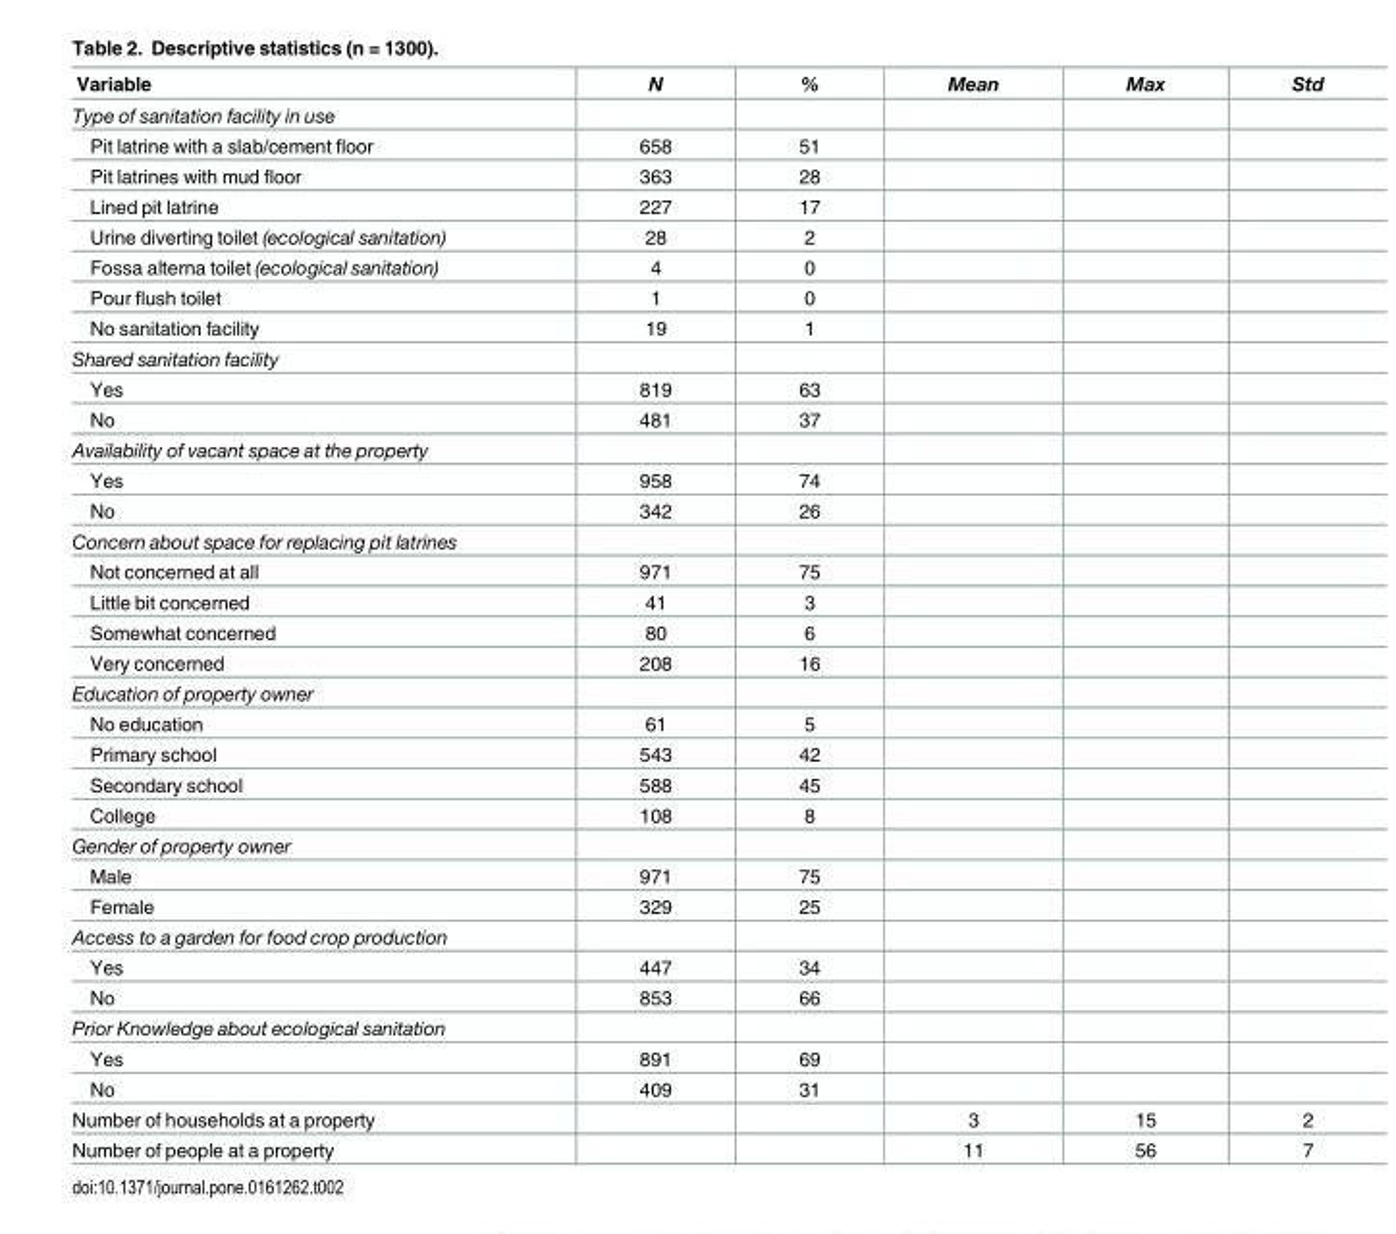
<table><thead><tr><td>Variable</td><td>N</td><td>%</td><td>Mean</td><td>Max</td><td>Std</td></tr></thead><tbody><tr><td colspan="6">Type of sanitation facility in use</td></tr><tr><td>Pit latrine with a slab/cement floor</td><td>658</td><td>51</td><td></td><td></td><td></td></tr><tr><td>Pit latrines with mud floor</td><td>363</td><td>28</td><td></td><td></td><td></td></tr><tr><td>Lined pit latrine</td><td>227</td><td>17</td><td></td><td></td><td></td></tr><tr><td>Urine diverting toilet (ecological sanitation)</td><td>28</td><td>2</td><td></td><td></td><td></td></tr><tr><td>Fossa alterna toilet (ecological sanitation)</td><td>4</td><td>0</td><td></td><td></td><td></td></tr><tr><td>Pour flush toilet</td><td>1</td><td>0</td><td></td><td></td><td></td></tr><tr><td>No sanitation facility</td><td>19</td><td>1</td><td></td><td></td><td></td></tr><tr><td colspan="6">Shared sanitation facility</td></tr><tr><td>Yes</td><td>819</td><td>63</td><td></td><td></td><td></td></tr><tr><td>No</td><td>481</td><td>37</td><td></td><td></td><td></td></tr><tr><td colspan="6">Availability of vacant space at the property</td></tr><tr><td>Yes</td><td>958</td><td>74</td><td></td><td></td><td></td></tr><tr><td>No</td><td>342</td><td>26</td><td></td><td></td><td></td></tr><tr><td colspan="6">Concern about space for replacing pit latrines</td></tr><tr><td>Not concerned at all</td><td>971</td><td>75</td><td></td><td></td><td></td></tr><tr><td>Little bit concerned</td><td>41</td><td>3</td><td></td><td></td><td></td></tr><tr><td>Somewhat concerned</td><td>80</td><td>6</td><td></td><td></td><td></td></tr><tr><td>Very concerned</td><td>208</td><td>16</td><td></td><td></td><td></td></tr><tr><td colspan="6">Education of property owner</td></tr><tr><td>No education</td><td>61</td><td>5</td><td></td><td></td><td></td></tr><tr><td>Primary school</td><td>543</td><td>42</td><td></td><td></td><td></td></tr><tr><td>Secondary school</td><td>588</td><td>45</td><td></td><td></td><td></td></tr><tr><td>College</td><td>108</td><td>8</td><td></td><td></td><td></td></tr><tr><td colspan="6">Gender of property owner</td></tr><tr><td>Male</td><td>971</td><td>75</td><td></td><td></td><td></td></tr><tr><td>Female</td><td>329</td><td>25</td><td></td><td></td><td></td></tr><tr><td colspan="6">Access to a garden for food crop production</td></tr><tr><td>Yes</td><td>447</td><td>34</td><td></td><td></td><td></td></tr><tr><td>No</td><td>853</td><td>66</td><td></td><td></td><td></td></tr><tr><td colspan="6">Prior Knowledge about ecological sanitation</td></tr><tr><td>Yes</td><td>891</td><td>69</td><td></td><td></td><td></td></tr><tr><td>No</td><td>409</td><td>31</td><td></td><td></td><td></td></tr><tr><td>Number of households at a property</td><td></td><td></td><td>3</td><td>15</td><td>2</td></tr><tr><td>Number of people at a property</td><td></td><td></td><td>11</td><td>56</td><td>7</td></tr></tbody></table>